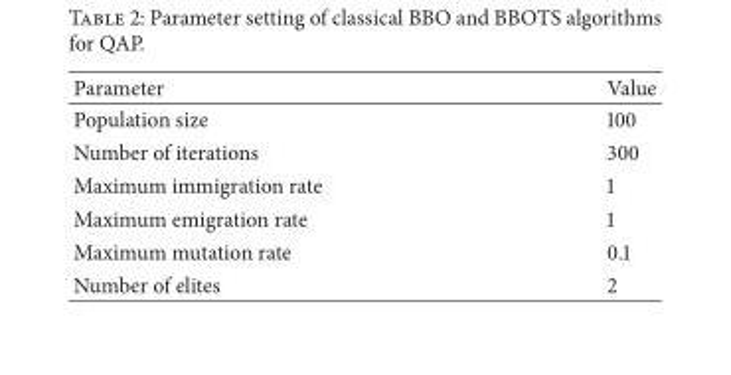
<table><thead><tr><td>Parameter</td><td>Value</td></tr></thead><tbody><tr><td>Population size</td><td>100</td></tr><tr><td>Number of iterations</td><td>300</td></tr><tr><td>Maximum immigration rate</td><td>1</td></tr><tr><td>Maximum emigration rate</td><td>1</td></tr><tr><td>Maximum mutation rate</td><td>0.1</td></tr><tr><td>Number of elites</td><td>2</td></tr></tbody></table>